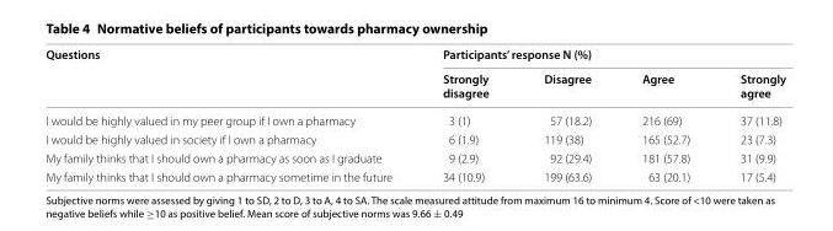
<table><thead><tr><td rowspan="2">Questions</td><td colspan="4">Participants’ response N (%)</td></tr><tr><td>Strongly disagree</td><td>Disagree</td><td>Agree</td><td>Strongly agree</td></tr></thead><tbody><tr><td>I would be highly valued in my peer group if I own a pharmacy</td><td>3 (1)</td><td>57 (18.2)</td><td>216 (69)</td><td>37 (11.8)</td></tr><tr><td>I would be highly valued in society if I own a pharmacy</td><td>6 (1.9)</td><td>119 (38)</td><td>165 (52.7)</td><td>23 (7.3)</td></tr><tr><td>My family thinks that I should own a pharmacy as soon as I graduate</td><td>9 (2.9)</td><td>92 (29.4)</td><td>181 (57.8)</td><td>31 (9.9)</td></tr><tr><td>My family thinks that I should own a pharmacy sometime in the future</td><td>34 (10.9)</td><td>199 (63.6)</td><td>63 (20.1)</td><td>17 (5.4)</td></tr></tbody></table>